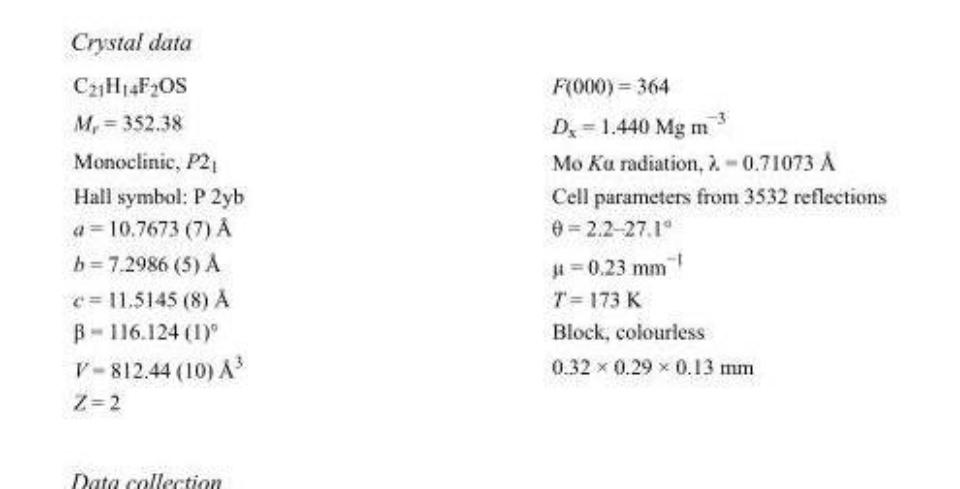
<table><tbody><tr><td>C<sub>21</sub>H<sub>14</sub>F<sub>2</sub>OS</td><td>F(000) = 364</td></tr><tr><td>M<sub>r</sub> = 352.38</td><td>D<sub>x</sub> = 1.440 Mg m<sup>−3</sup></td></tr><tr><td>Monoclinic, P2<sub>1</sub></td><td>Mo Kα radiation, λ = 0.71073 Å</td></tr><tr><td>Hall symbol: P 2yb</td><td>Cell parameters from 3532 reflections</td></tr><tr><td>a = 10.7673 (7) Å</td><td>θ = 2.2–27.1°</td></tr><tr><td>b = 7.2986 (5) Å</td><td>µ = 0.23 mm<sup>−1</sup></td></tr><tr><td>c = 11.5145 (8) Å</td><td>T = 173 K</td></tr><tr><td>β = 116.124 (1)°</td><td>Block, colourless</td></tr><tr><td>V = 812.44 (10) Å<sup>3</sup></td><td>0.32 × 0.29 × 0.13 mm</td></tr><tr><td>Z = 2</td><td></td></tr></tbody></table>